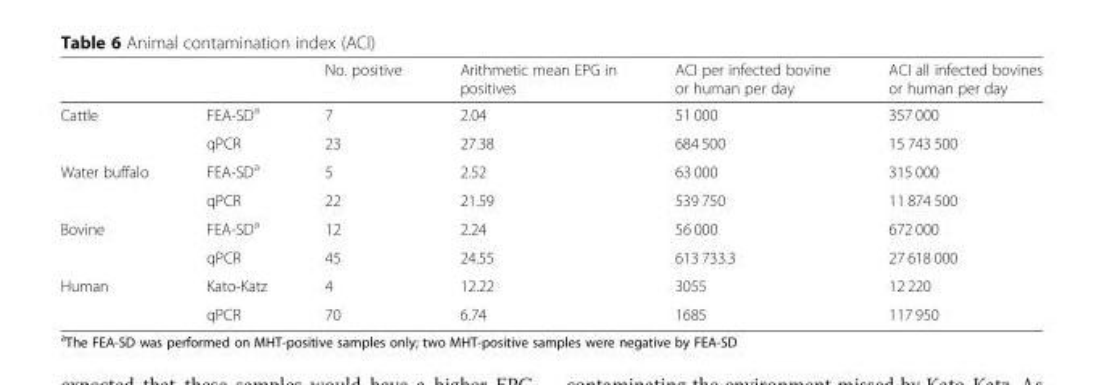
<table><thead><tr><td></td><td></td><td>No. positive</td><td>Arithmetic mean EPG in positives</td><td>ACI per infected bovine or human per day</td><td>ACI all infected bovines or human per day</td></tr></thead><tbody><tr><td rowspan="2">Cattle</td><td>FEA-SD<sup>a</sup></td><td>7</td><td>2.04</td><td>51 000</td><td>357 000</td></tr><tr><td>qPCR</td><td>23</td><td>27.38</td><td>684 500</td><td>15 743 500</td></tr><tr><td rowspan="2">Water buffalo</td><td>FEA-SD<sup>a</sup></td><td>5</td><td>2.52</td><td>63 000</td><td>315 000</td></tr><tr><td>qPCR</td><td>22</td><td>21.59</td><td>539 750</td><td>11 874 500</td></tr><tr><td rowspan="2">Bovine</td><td>FEA-SD<sup>a</sup></td><td>12</td><td>2.24</td><td>56 000</td><td>672 000</td></tr><tr><td>qPCR</td><td>45</td><td>24.55</td><td>613 733.3</td><td>27 618 000</td></tr><tr><td rowspan="2">Human</td><td>Kato-Katz</td><td>4</td><td>12.22</td><td>3055</td><td>12 220</td></tr><tr><td>qPCR</td><td>70</td><td>6.74</td><td>1685</td><td>117 950</td></tr></tbody></table>